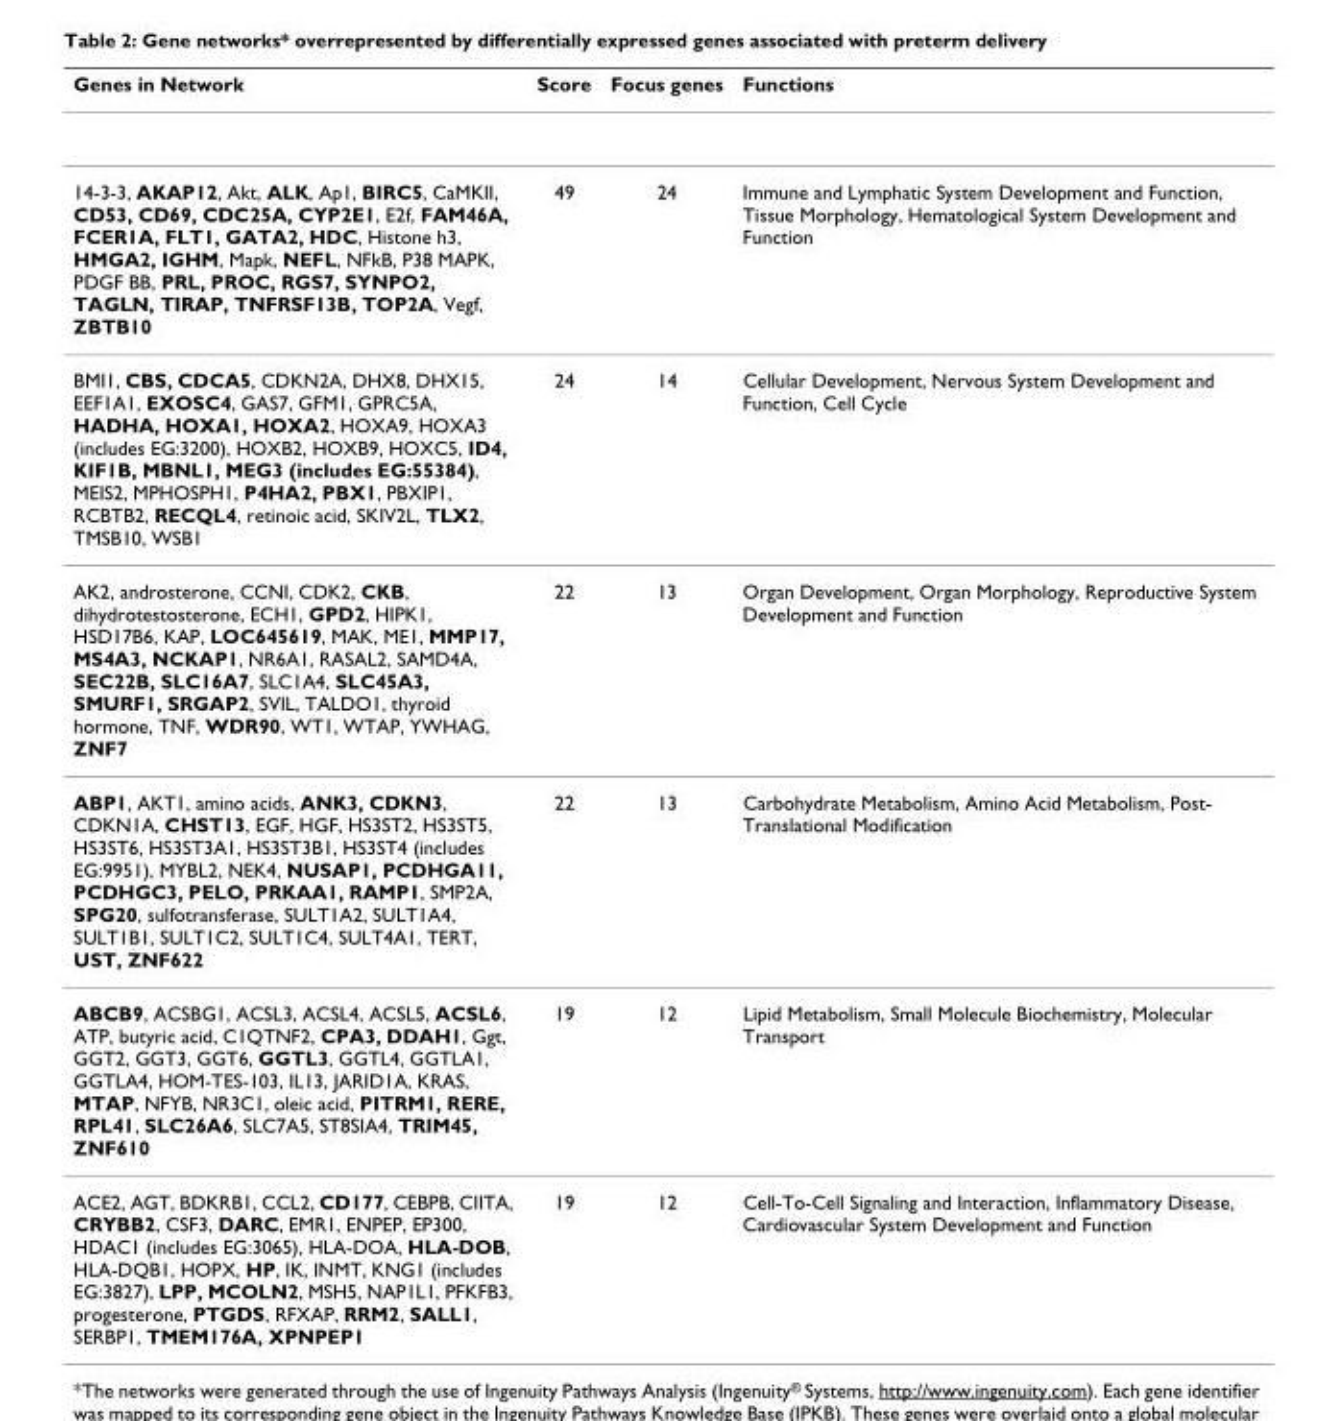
<table><thead><tr><td>Genes in Network</td><td>Score</td><td>Focus genes</td><td>Functions</td></tr></thead><tbody><tr><td>14-3-3, AKAP12, Akt, ALK, Ap1, BIRC5, CaMKII, CD53, CD69, CDC25A, CYP2E1, E2f, FAM46A, FCER1A, FLT1, GATA2, HDC, Histone h3, HMGA2, IGHM, Mapk, NEFL, NFkB, P38 MAPK, PDGF BB, PRL, PROC, RGS7, SYNPO2, TAGLN, TIRAP, TNFRSF13B, TOP2A, Vegf, ZBTB10</td><td>49</td><td>24</td><td>Immune and Lymphatic System Development and Function, Tissue Morphology, Hematological System Development and Function</td></tr><tr><td>BMI1, CBS, CDCA5, CDKN2A, DHX8, DHX15, EEF1A1, EXOSC4, GAS7, GFM1, GPRC5A, HADHA, HOXA1, HOXA2, HOXA9, HOXA3 (includes EG:3200), HOXB2, HOXB9, HOXC5, ID4, KIF1B, MBNL1, MEG3 (includes EG:55384), MEIS2, MPHOSPH1, P4HA2, PBX1, PBXIP1, RCBTB2, RECQL4, retinoic acid, SKIV2L, TLX2, TMSB10, WSB1</td><td>24</td><td>14</td><td>Cellular Development, Nervous System Development and Function, Cell Cycle</td></tr><tr><td>AK2, androsterone, CCNI, CDK2, CKB, dihydrotestosterone, ECH1, GPD2, HIPK1, HSD17B6, KAP, LOC645619, MAK, ME1, MMP17, MS4A3, NCKAP1, NR6A1, RASAL2, SAMD4A, SEC22B, SLC16A7, SLC1A4, SLC45A3, SMURF1, SRGAP2, SVIL, TALDO1, thyroid hormone, TNF, WDR90, WT1, WTAP, YWHAG, ZNF7</td><td>22</td><td>13</td><td>Organ Development, Organ Morphology, Reproductive System Development and Function</td></tr><tr><td>ABP1, AKT1, amino acids, ANK3, CDKN3, CDKN1A, CHST13, EGF, HGF, HS3ST2, HS3ST5, HS3ST6, HS3ST3A1, HS3ST3B1, HS3ST4 (includes EG:9951), MYBL2, NEK4, NUSAP1, PCDHGA11, PCDHGC3, PELO, PRKAA1, RAMP1, SMP2A, SPG20, sulfotransferase, SULT1A2, SULT1A4, SULT1B1, SULT1C2, SULT1C4, SULT4A1, TERT, UST, ZNF622</td><td>22</td><td>13</td><td>Carbohydrate Metabolism, Amino Acid Metabolism, Post- Translational Modification</td></tr><tr><td>ABCB9, ACSBG1, ACSL3, ACSL4, ACSL5, ACSL6, ATP, butyric acid, C1QTNF2, CPA3, DDAH1, Ggt, GGT2, GGT3, GGT6, GGTL3, GGTL4, GGTLA1, GGTLA4, HOM-TES-103, IL13, JARID1A, KRAS, MTAP, NFYB, NR3C1, oleic acid, PITRM1, RERE, RPL41, SLC26A6, SLC7A5, ST8SIA4, TRIM45, ZNF610</td><td>19</td><td>12</td><td>Lipid Metabolism, Small Molecule Biochemistry, Molecular Transport</td></tr><tr><td>ACE2, AGT, BDKRB1, CCL2, CD177, CEBPB, CIITA, CRYBB2, CSF3, DARC, EMR1, ENPEP, EP300, HDAC1 (includes EG:3065), HLA-DOA, HLA-DOB, HLA-DQB1, HOPX, HP, IK, INMT, KNG1 (includes EG:3827), LPP, MCOLN2, MSH5, NAP1L1, PFKFB3, progesterone, PTGDS, RFXAP, RRM2, SALL1, SERBP1, TMEM176A, XPNPEP1</td><td>19</td><td>12</td><td>Cell-To-Cell Signaling and Interaction, Inflammatory Disease, Cardiovascular System Development and Function</td></tr></tbody></table>